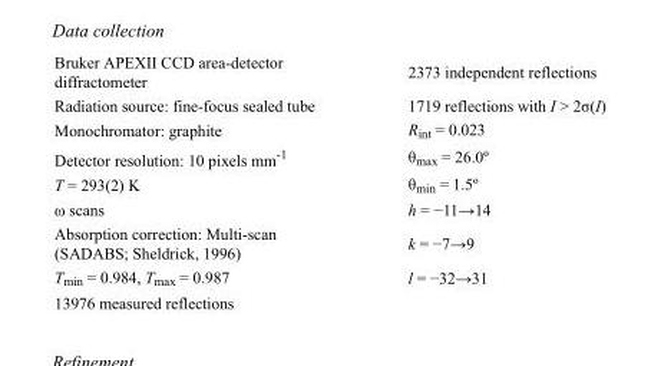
<table><tbody><tr><td>Bruker APEXII CCD area-detector diffractometer</td><td>2373 independent reflections</td></tr><tr><td>Radiation source: fine-focus sealed tube</td><td>1719 reflections with I &gt; 2σ(I)</td></tr><tr><td>Monochromator: graphite</td><td>R<sub>int</sub> = 0.023</td></tr><tr><td>Detector resolution: 10 pixels mm<sup>-1</sup></td><td>θ<sub>max</sub> = 26.0º</td></tr><tr><td>T = 293(2) K</td><td>θ<sub>min</sub> = 1.5º</td></tr><tr><td>ω scans</td><td>h = −11→14</td></tr><tr><td>Absorption correction: Multi-scan (SADABS; Sheldrick, 1996)</td><td>k = −7→9</td></tr><tr><td>T<sub>min</sub> = 0.984, T<sub>max</sub> = 0.987</td><td>l = −32→31</td></tr><tr><td>13976 measured reflections</td><td></td></tr></tbody></table>